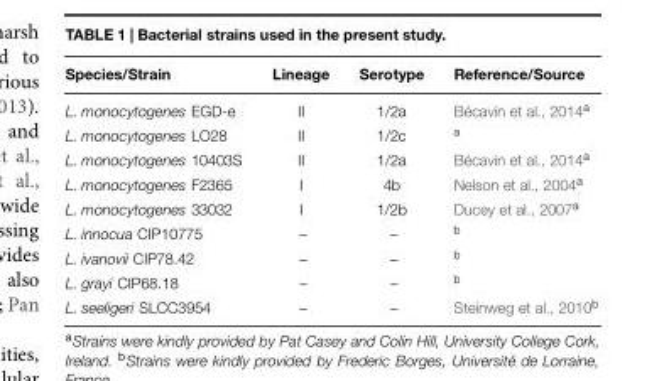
<table><thead><tr><td>Species/Strain</td><td>Lineage</td><td>Serotype</td><td>Reference/Source</td></tr></thead><tbody><tr><td>L. monocytogenes EGD-e</td><td>II</td><td>1/2a</td><td>Bécavin et al., 2014<sup>a</sup></td></tr><tr><td>L. monocytogenes LO28</td><td>II</td><td>1/2c</td><td><sup>a</sup></td></tr><tr><td>L. monocytogenes 10403S</td><td>II</td><td>1/2a</td><td>Bécavin et al., 2014<sup>a</sup></td></tr><tr><td>L. monocytogenes F2365</td><td>I</td><td>4b</td><td>Nelson et al., 2004<sup>a</sup></td></tr><tr><td>L. monocytogenes 33032</td><td>I</td><td>1/2b</td><td>Ducey et al., 2007<sup>a</sup></td></tr><tr><td>L. innocua CIP10775</td><td>–</td><td>–</td><td><sup>b</sup></td></tr><tr><td>L. ivanovii CIP78.42</td><td>–</td><td>–</td><td><sup>b</sup></td></tr><tr><td>L. grayi CIP68.18</td><td>–</td><td>–</td><td><sup>b</sup></td></tr><tr><td>L. seeligeri SLCC3954</td><td>–</td><td>–</td><td>Steinweg et al., 2010<sup>b</sup></td></tr></tbody></table>